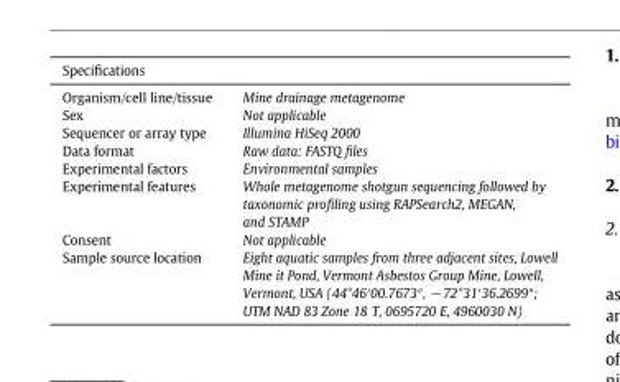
<table><thead><tr><td colspan="2">Specifications</td></tr><tr><td>Organism/cell line/tissue</td><td>Mine drainage metagenome</td></tr></thead><tbody><tr><td>Sex</td><td>Not applicable</td></tr><tr><td>Sequencer or array type</td><td>Illumina HiSeq 2000</td></tr><tr><td>Data format</td><td>Raw data: FASTQ files</td></tr><tr><td>Experimental factors</td><td>Environmental samples</td></tr><tr><td>Experimental features</td><td>Whole metagenome shotgun sequencing followed by taxonomic profiling using RAPSearch2, MEGAN, and STAMP</td></tr><tr><td>Consent</td><td>Not applicable</td></tr><tr><td>Sample source location</td><td>Eight aquatic samples from three adjacent sites, Lowell Mine it Pond, Vermont Asbestos Group Mine, Lowell, Vermont, USA (44°46′00.7673″, −72°31′36.2699″; UTM NAD 83 Zone 18 T, 0695720 E, 4960030 N)</td></tr></tbody></table>